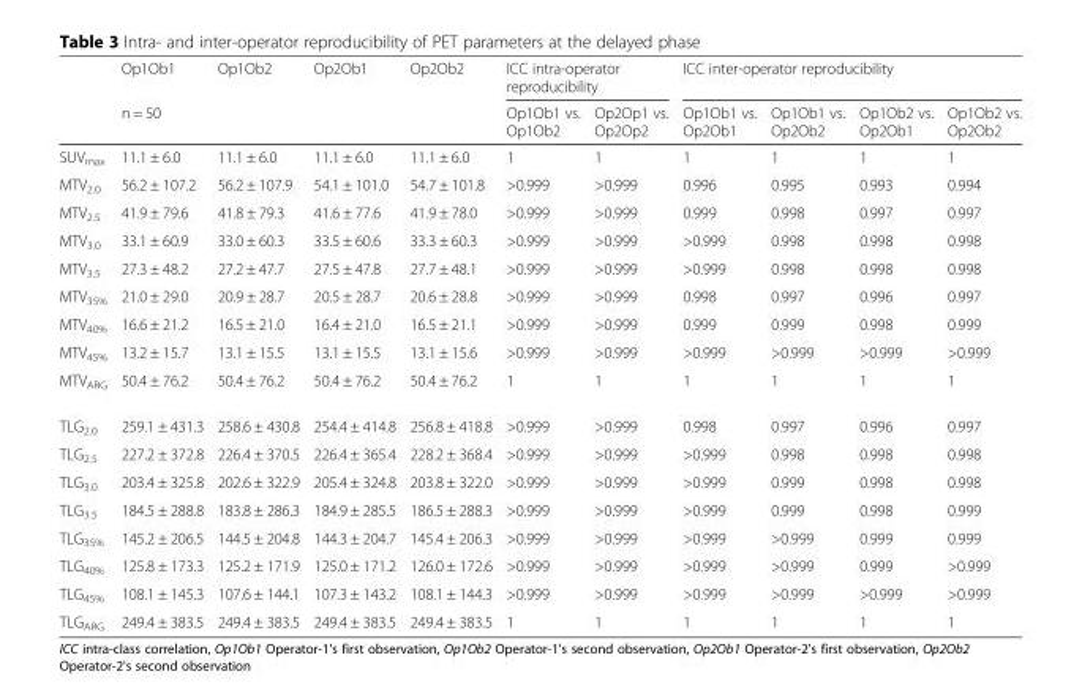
<table><thead><tr><td rowspan="2"></td><td>Op1Ob1</td><td>Op1Ob2</td><td>Op2Ob1</td><td>Op2Ob2</td><td colspan="2">ICC intra-operator reproducibility</td><td colspan="4">ICC inter-operator reproducibility</td></tr><tr><td colspan="4">n = 50</td><td>Op1Ob1 vs. Op1Ob2</td><td>Op2Op1 vs. Op2Op2</td><td>Op1Ob1 vs. Op2Ob1</td><td>Op1Ob1 vs. Op2Ob2</td><td>Op1Ob2 vs. Op2Ob1</td><td>Op1Ob2 vs. Op2Ob2</td></tr></thead><tbody><tr><td>SUV<sub>max</sub></td><td>11.1 ± 6.0</td><td>11.1 ± 6.0</td><td>11.1 ± 6.0</td><td>11.1 ± 6.0</td><td>1</td><td>1</td><td>1</td><td>1</td><td>1</td><td>1</td></tr><tr><td>MTV<sub>2.0</sub></td><td>56.2 ± 107.2</td><td>56.2 ± 107.9</td><td>54.1 ± 101.0</td><td>54.7 ± 101.8</td><td>&gt;0.999</td><td>&gt;0.999</td><td>0.996</td><td>0.995</td><td>0.993</td><td>0.994</td></tr><tr><td>MTV<sub>2.5</sub></td><td>41.9 ± 79.6</td><td>41.8 ± 79.3</td><td>41.6 ± 77.6</td><td>41.9 ± 78.0</td><td>&gt;0.999</td><td>&gt;0.999</td><td>0.999</td><td>0.998</td><td>0.997</td><td>0.997</td></tr><tr><td>MTV<sub>3.0</sub></td><td>33.1 ± 60.9</td><td>33.0 ± 60.3</td><td>33.5 ± 60.6</td><td>33.3 ± 60.3</td><td>&gt;0.999</td><td>&gt;0.999</td><td>&gt;0.999</td><td>0.998</td><td>0.998</td><td>0.998</td></tr><tr><td>MTV<sub>3.5</sub></td><td>27.3 ± 48.2</td><td>27.2 ± 47.7</td><td>27.5 ± 47.8</td><td>27.7 ± 48.1</td><td>&gt;0.999</td><td>&gt;0.999</td><td>&gt;0.999</td><td>0.998</td><td>0.998</td><td>0.998</td></tr><tr><td>MTV<sub>35%</sub></td><td>21.0 ± 29.0</td><td>20.9 ± 28.7</td><td>20.5 ± 28.7</td><td>20.6 ± 28.8</td><td>&gt;0.999</td><td>&gt;0.999</td><td>0.998</td><td>0.997</td><td>0.996</td><td>0.997</td></tr><tr><td>MTV<sub>40%</sub></td><td>16.6 ± 21.2</td><td>16.5 ± 21.0</td><td>16.4 ± 21.0</td><td>16.5 ± 21.1</td><td>&gt;0.999</td><td>&gt;0.999</td><td>0.999</td><td>0.999</td><td>0.998</td><td>0.999</td></tr><tr><td>MTV<sub>45%</sub></td><td>13.2 ± 15.7</td><td>13.1 ± 15.5</td><td>13.1 ± 15.5</td><td>13.1 ± 15.6</td><td>&gt;0.999</td><td>&gt;0.999</td><td>&gt;0.999</td><td>&gt;0.999</td><td>&gt;0.999</td><td>&gt;0.999</td></tr><tr><td>MTV<sub>ARG</sub></td><td>50.4 ± 76.2</td><td>50.4 ± 76.2</td><td>50.4 ± 76.2</td><td>50.4 ± 76.2</td><td>1</td><td>1</td><td>1</td><td>1</td><td>1</td><td>1</td></tr><tr><td>TLG<sub>2.0</sub></td><td>259.1 ± 431.3</td><td>258.6 ± 430.8</td><td>254.4 ± 414.8</td><td>256.8 ± 418.8</td><td>&gt;0.999</td><td>&gt;0.999</td><td>0.998</td><td>0.997</td><td>0.996</td><td>0.997</td></tr><tr><td>TLG<sub>2.5</sub></td><td>227.2 ± 372.8</td><td>226.4 ± 370.5</td><td>226.4 ± 365.4</td><td>228.2 ± 368.4</td><td>&gt;0.999</td><td>&gt;0.999</td><td>&gt;0.999</td><td>0.998</td><td>0.998</td><td>0.998</td></tr><tr><td>TLG<sub>3.0</sub></td><td>203.4 ± 325.8</td><td>202.6 ± 322.9</td><td>205.4 ± 324.8</td><td>203.8 ± 322.0</td><td>&gt;0.999</td><td>&gt;0.999</td><td>&gt;0.999</td><td>0.999</td><td>0.998</td><td>0.998</td></tr><tr><td>TLG<sub>3.5</sub></td><td>184.5 ± 288.8</td><td>183.8 ± 286.3</td><td>184.9 ± 285.5</td><td>186.5 ± 288.3</td><td>&gt;0.999</td><td>&gt;0.999</td><td>&gt;0.999</td><td>0.999</td><td>0.998</td><td>0.999</td></tr><tr><td>TLG<sub>35%</sub></td><td>145.2 ± 206.5</td><td>144.5 ± 204.8</td><td>144.3 ± 204.7</td><td>145.4 ± 206.3</td><td>&gt;0.999</td><td>&gt;0.999</td><td>&gt;0.999</td><td>&gt;0.999</td><td>0.999</td><td>0.999</td></tr><tr><td>TLG<sub>40%</sub></td><td>125.8 ± 173.3</td><td>125.2 ± 171.9</td><td>125.0 ± 171.2</td><td>126.0 ± 172.6</td><td>&gt;0.999</td><td>&gt;0.999</td><td>&gt;0.999</td><td>&gt;0.999</td><td>0.999</td><td>&gt;0.999</td></tr><tr><td>TLG<sub>45%</sub></td><td>108.1 ± 145.3</td><td>107.6 ± 144.1</td><td>107.3 ± 143.2</td><td>108.1 ± 144.3</td><td>&gt;0.999</td><td>&gt;0.999</td><td>&gt;0.999</td><td>&gt;0.999</td><td>&gt;0.999</td><td>&gt;0.999</td></tr><tr><td>TLG<sub>ARG</sub></td><td>249.4 ± 383.5</td><td>249.4 ± 383.5</td><td>249.4 ± 383.5</td><td>249.4 ± 383.5</td><td>1</td><td>1</td><td>1</td><td>1</td><td>1</td><td>1</td></tr></tbody></table>